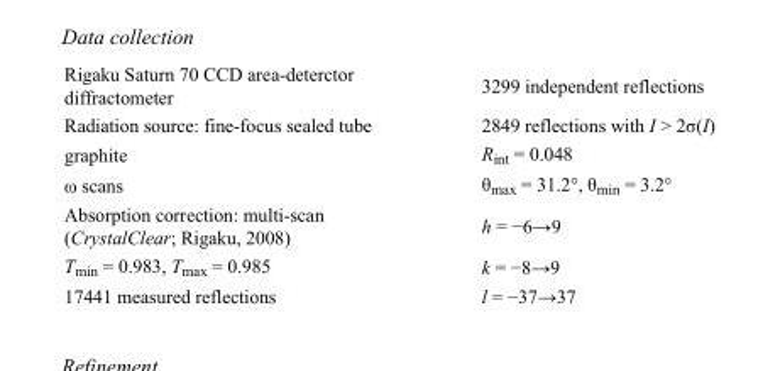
<table><tbody><tr><td>Rigaku Saturn 70 CCD area-deterctor diffractometer</td><td>3299 independent reflections</td></tr><tr><td>Radiation source: fine-focus sealed tube</td><td>2849 reflections with I &gt; 2σ(I)</td></tr><tr><td>graphite</td><td>R<sub>int</sub> = 0.048</td></tr><tr><td>ω scans</td><td>θ<sub>max</sub> = 31.2°, θ<sub>min</sub> = 3.2°</td></tr><tr><td>Absorption correction: multi-scan (CrystalClear; Rigaku, 2008)</td><td>h = −6→9</td></tr><tr><td>T<sub>min</sub> = 0.983, T<sub>max</sub> = 0.985</td><td>k = −8→9</td></tr><tr><td>17441 measured reflections</td><td>l = −37→37</td></tr></tbody></table>